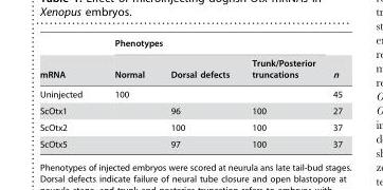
<table><thead><tr><td rowspan="2">mRNA</td><td colspan="3">Phenotypes</td><td rowspan="2">n</td></tr><tr><td>Normal</td><td>Dorsal defects</td><td>Trunk/Posterior truncations</td></tr></thead><tbody><tr><td>Uninjected</td><td>100</td><td></td><td></td><td>45</td></tr><tr><td>ScOtx1</td><td></td><td>96</td><td>100</td><td>27</td></tr><tr><td>ScOtx2</td><td></td><td>100</td><td>100</td><td>37</td></tr><tr><td>ScOtx5</td><td></td><td>97</td><td>100</td><td>37</td></tr></tbody></table>